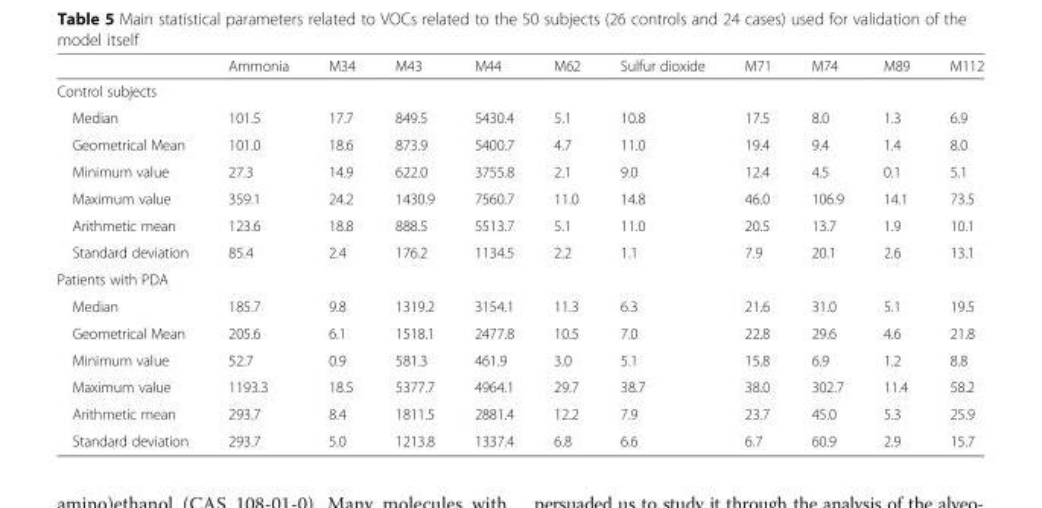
<table><thead><tr><td></td><td>Ammonia</td><td>M34</td><td>M43</td><td>M44</td><td>M62</td><td>Sulfur dioxide</td><td>M71</td><td>M74</td><td>M89</td><td>M112</td></tr></thead><tbody><tr><td colspan="11">Control subjects</td></tr><tr><td>Median</td><td>101.5</td><td>17.7</td><td>849.5</td><td>5430.4</td><td>5.1</td><td>10.8</td><td>17.5</td><td>8.0</td><td>1.3</td><td>6.9</td></tr><tr><td>Geometrical Mean</td><td>101.0</td><td>18.6</td><td>873.9</td><td>5400.7</td><td>4.7</td><td>11.0</td><td>19.4</td><td>9.4</td><td>1.4</td><td>8.0</td></tr><tr><td>Minimum value</td><td>27.3</td><td>14.9</td><td>622.0</td><td>3755.8</td><td>2.1</td><td>9.0</td><td>12.4</td><td>4.5</td><td>0.1</td><td>5.1</td></tr><tr><td>Maximum value</td><td>359.1</td><td>24.2</td><td>1430.9</td><td>7560.7</td><td>11.0</td><td>14.8</td><td>46.0</td><td>106.9</td><td>14.1</td><td>73.5</td></tr><tr><td>Arithmetic mean</td><td>123.6</td><td>18.8</td><td>888.5</td><td>5513.7</td><td>5.1</td><td>11.0</td><td>20.5</td><td>13.7</td><td>1.9</td><td>10.1</td></tr><tr><td>Standard deviation</td><td>85.4</td><td>2.4</td><td>176.2</td><td>1134.5</td><td>2.2</td><td>1.1</td><td>7.9</td><td>20.1</td><td>2.6</td><td>13.1</td></tr><tr><td colspan="11">Patients with PDA</td></tr><tr><td>Median</td><td>185.7</td><td>9.8</td><td>1319.2</td><td>3154.1</td><td>11.3</td><td>6.3</td><td>21.6</td><td>31.0</td><td>5.1</td><td>19.5</td></tr><tr><td>Geometrical Mean</td><td>205.6</td><td>6.1</td><td>1518.1</td><td>2477.8</td><td>10.5</td><td>7.0</td><td>22.8</td><td>29.6</td><td>4.6</td><td>21.8</td></tr><tr><td>Minimum value</td><td>52.7</td><td>0.9</td><td>581.3</td><td>461.9</td><td>3.0</td><td>5.1</td><td>15.8</td><td>6.9</td><td>1.2</td><td>8.8</td></tr><tr><td>Maximum value</td><td>1193.3</td><td>18.5</td><td>5377.7</td><td>4964.1</td><td>29.7</td><td>38.7</td><td>38.0</td><td>302.7</td><td>11.4</td><td>58.2</td></tr><tr><td>Arithmetic mean</td><td>293.7</td><td>8.4</td><td>1811.5</td><td>2881.4</td><td>12.2</td><td>7.9</td><td>23.7</td><td>45.0</td><td>5.3</td><td>25.9</td></tr><tr><td>Standard deviation</td><td>293.7</td><td>5.0</td><td>1213.8</td><td>1337.4</td><td>6.8</td><td>6.6</td><td>6.7</td><td>60.9</td><td>2.9</td><td>15.7</td></tr></tbody></table>